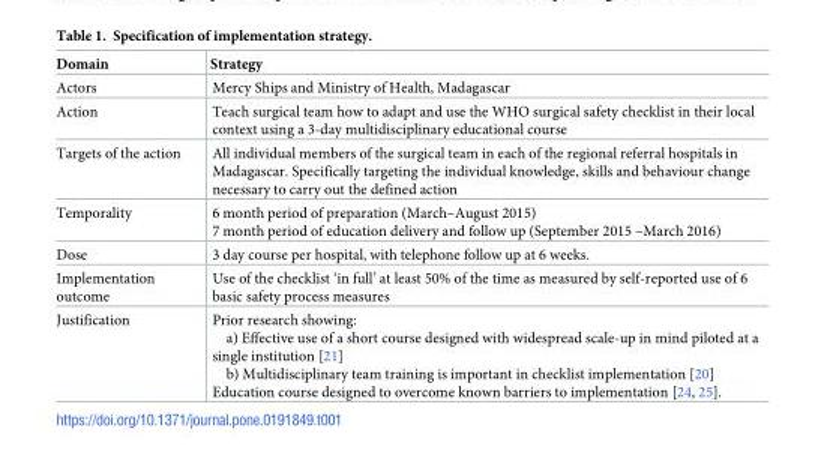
<table><thead><tr><td>Domain</td><td>Strategy</td></tr></thead><tbody><tr><td>Actors</td><td>Mercy Ships and Ministry of Health, Madagascar</td></tr><tr><td>Action</td><td>Teach surgical team how to adapt and use the WHO surgical safety checklist in their local context using a 3-day multidisciplinary educational course</td></tr><tr><td>Targets of the action</td><td>All individual members of the surgical team in each of the regional referral hospitals in Madagascar. Specifically targeting the individual knowledge, skills and behaviour change necessary to carry out the defined action</td></tr><tr><td>Temporality</td><td>6 month period of preparation (March–August 2015) 7 month period of education delivery and follow up (September 2015 –March 2016)</td></tr><tr><td>Dose</td><td>3 day course per hospital, with telephone follow up at 6 weeks.</td></tr><tr><td>Implementation outcome</td><td>Use of the checklist ‘in full’ at least 50% of the time as measured by self-reported use of 6 basic safety process measures</td></tr><tr><td>Justification</td><td>Prior research showing: a) Effective use of a short course designed with widespread scale-up in mind piloted at a single institution [21] b) Multidisciplinary team training is important in checklist implementation [20] Education course designed to overcome known barriers to implementation [24, 25].</td></tr></tbody></table>